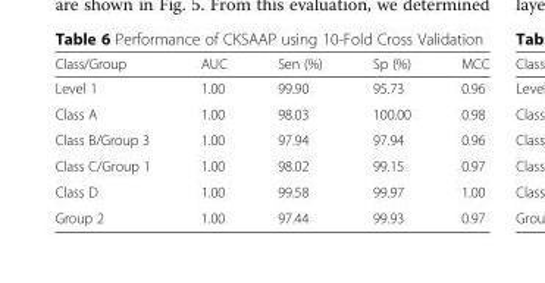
<table><thead><tr><td>Class/Group</td><td>AUC</td><td>Sen (%)</td><td>Sp (%)</td><td>MCC</td></tr></thead><tbody><tr><td>Level 1</td><td>1.00</td><td>99.90</td><td>95.73</td><td>0.96</td></tr><tr><td>Class A</td><td>1.00</td><td>98.03</td><td>100.00</td><td>0.98</td></tr><tr><td>Class B/Group 3</td><td>1.00</td><td>97.94</td><td>97.94</td><td>0.96</td></tr><tr><td>Class C/Group 1</td><td>1.00</td><td>98.02</td><td>99.15</td><td>0.97</td></tr><tr><td>Class D</td><td>1.00</td><td>99.58</td><td>99.97</td><td>1.00</td></tr><tr><td>Group 2</td><td>1.00</td><td>97.44</td><td>99.93</td><td>0.97</td></tr></tbody></table>